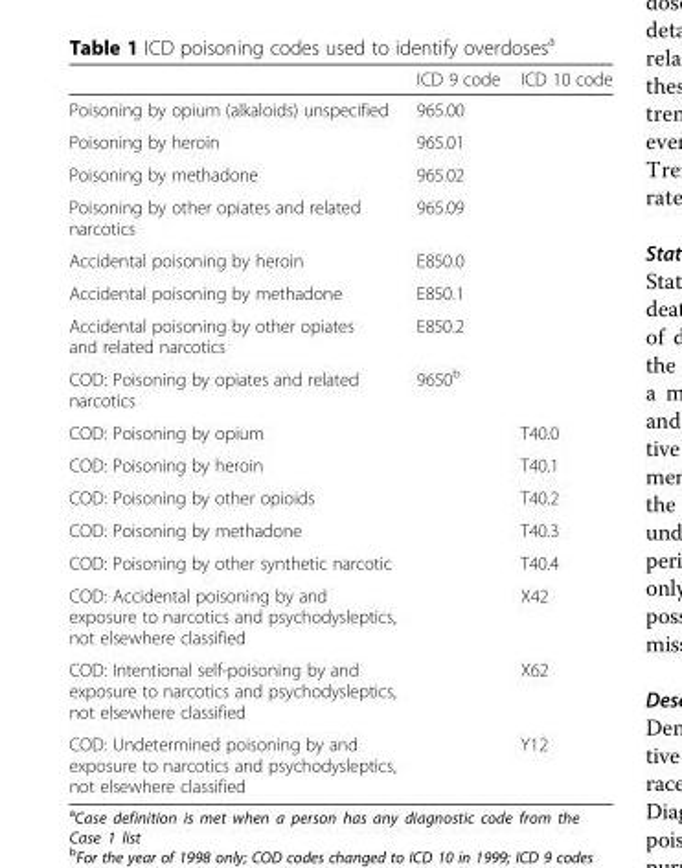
<table><thead><tr><td></td><td>ICD 9 code</td><td>ICD 10 code</td></tr></thead><tbody><tr><td>Poisoning by opium (alkaloids) unspecified</td><td>965.00</td><td></td></tr><tr><td>Poisoning by heroin</td><td>965.01</td><td></td></tr><tr><td>Poisoning by methadone</td><td>965.02</td><td></td></tr><tr><td>Poisoning by other opiates and related narcotics</td><td>965.09</td><td></td></tr><tr><td>Accidental poisoning by heroin</td><td>E850.0</td><td></td></tr><tr><td>Accidental poisoning by methadone</td><td>E850.1</td><td></td></tr><tr><td>Accidental poisoning by other opiates and related narcotics</td><td>E850.2</td><td></td></tr><tr><td>COD: Poisoning by opiates and related narcotics</td><td>9650<sup>b</sup></td><td></td></tr><tr><td>COD: Poisoning by opium</td><td></td><td>T40.0</td></tr><tr><td>COD: Poisoning by heroin</td><td></td><td>T40.1</td></tr><tr><td>COD: Poisoning by other opioids</td><td></td><td>T40.2</td></tr><tr><td>COD: Poisoning by methadone</td><td></td><td>T40.3</td></tr><tr><td>COD: Poisoning by other synthetic narcotic</td><td></td><td>T40.4</td></tr><tr><td>COD: Accidental poisoning by and exposure to narcotics and psychodysleptics, not elsewhere classified</td><td></td><td>X42</td></tr><tr><td>COD: Intentional self-poisoning by and exposure to narcotics and psychodysleptics, not elsewhere classified</td><td></td><td>X62</td></tr><tr><td>COD: Undetermined poisoning by and exposure to narcotics and psychodysleptics, not elsewhere classified</td><td></td><td>Y12</td></tr></tbody></table>